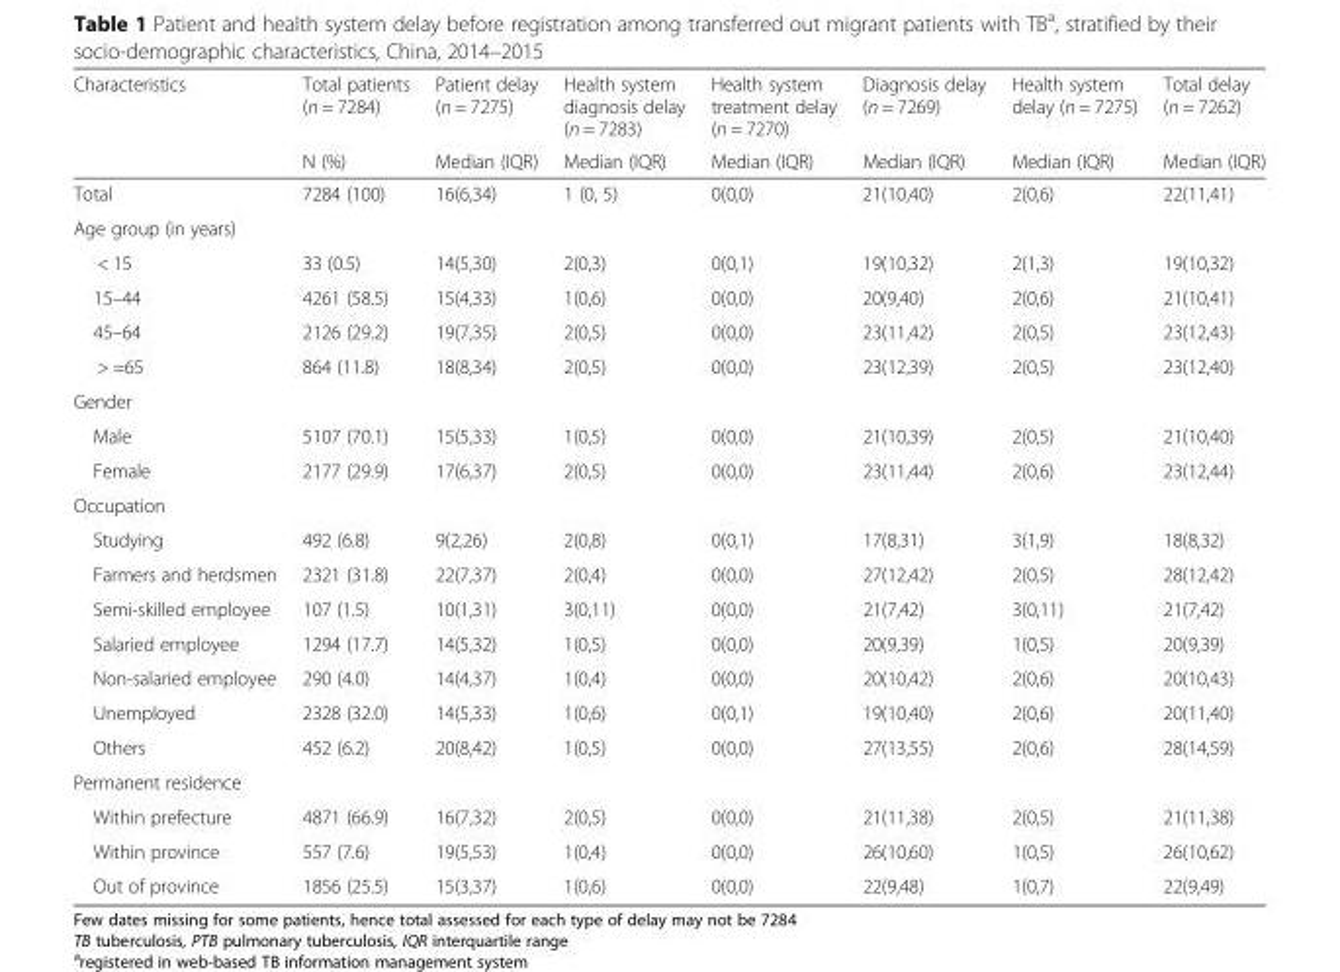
<table><thead><tr><td rowspan="2">Characteristics</td><td rowspan="2">Total patients (n = 7284) N (%)</td><td rowspan="2">Patient delay (n = 7275) Median (IQR)</td><td rowspan="2">Health system diagnosis delay (n = 7283) Median (IQR)</td><td rowspan="2">Health system treatment delay (n = 7270) Median (IQR)</td><td rowspan="2">Diagnosis delay (n = 7269) Median (IQR)</td><td rowspan="2">Health system delay (n = 7275) Median (IQR)</td><td rowspan="2">Total delay (n = 7262) Median (IQR)</td></tr><tr></tr></thead><tbody><tr><td>Total</td><td>7284 (100)</td><td>16(6,34)</td><td>1 (0, 5)</td><td>0(0,0)</td><td>21(10,40)</td><td>2(0,6)</td><td>22(11,41)</td></tr><tr><td colspan="8">Age group (in years)</td></tr><tr><td>&lt; 15</td><td>33 (0.5)</td><td>14(5,30)</td><td>2(0,3)</td><td>0(0,1)</td><td>19(10,32)</td><td>2(1,3)</td><td>19(10,32)</td></tr><tr><td>15–44</td><td>4261 (58.5)</td><td>15(4,33)</td><td>1(0,6)</td><td>0(0,0)</td><td>20(9,40)</td><td>2(0,6)</td><td>21(10,41)</td></tr><tr><td>45–64</td><td>2126 (29.2)</td><td>19(7,35)</td><td>2(0,5)</td><td>0(0,0)</td><td>23(11,42)</td><td>2(0,5)</td><td>23(12,43)</td></tr><tr><td>&gt; =65</td><td>864 (11.8)</td><td>18(8,34)</td><td>2(0,5)</td><td>0(0,0)</td><td>23(12,39)</td><td>2(0,5)</td><td>23(12,40)</td></tr><tr><td colspan="8">Gender</td></tr><tr><td>Male</td><td>5107 (70.1)</td><td>15(5,33)</td><td>1(0,5)</td><td>0(0,0)</td><td>21(10,39)</td><td>2(0,5)</td><td>21(10,40)</td></tr><tr><td>Female</td><td>2177 (29.9)</td><td>17(6,37)</td><td>2(0,5)</td><td>0(0,0)</td><td>23(11,44)</td><td>2(0,6)</td><td>23(12,44)</td></tr><tr><td colspan="8">Occupation</td></tr><tr><td>Studying</td><td>492 (6.8)</td><td>9(2,26)</td><td>2(0,8)</td><td>0(0,1)</td><td>17(8,31)</td><td>3(1,9)</td><td>18(8,32)</td></tr><tr><td>Farmers and herdsmen</td><td>2321 (31.8)</td><td>22(7,37)</td><td>2(0,4)</td><td>0(0,0)</td><td>27(12,42)</td><td>2(0,5)</td><td>28(12,42)</td></tr><tr><td>Semi-skilled employee</td><td>107 (1.5)</td><td>10(1,31)</td><td>3(0,11)</td><td>0(0,0)</td><td>21(7,42)</td><td>3(0,11)</td><td>21(7,42)</td></tr><tr><td>Salaried employee</td><td>1294 (17.7)</td><td>14(5,32)</td><td>1(0,5)</td><td>0(0,0)</td><td>20(9,39)</td><td>1(0,5)</td><td>20(9,39)</td></tr><tr><td>Non-salaried employee</td><td>290 (4.0)</td><td>14(4,37)</td><td>1(0,4)</td><td>0(0,0)</td><td>20(10,42)</td><td>2(0,6)</td><td>20(10,43)</td></tr><tr><td>Unemployed</td><td>2328 (32.0)</td><td>14(5,33)</td><td>1(0,6)</td><td>0(0,1)</td><td>19(10,40)</td><td>2(0,6)</td><td>20(11,40)</td></tr><tr><td>Others</td><td>452 (6.2)</td><td>20(8,42)</td><td>1(0,5)</td><td>0(0,0)</td><td>27(13,55)</td><td>2(0,6)</td><td>28(14,59)</td></tr><tr><td colspan="8">Permanent residence</td></tr><tr><td>Within prefecture</td><td>4871 (66.9)</td><td>16(7,32)</td><td>2(0,5)</td><td>0(0,0)</td><td>21(11,38)</td><td>2(0,5)</td><td>21(11,38)</td></tr><tr><td>Within province</td><td>557 (7.6)</td><td>19(5,53)</td><td>1(0,4)</td><td>0(0,0)</td><td>26(10,60)</td><td>1(0,5)</td><td>26(10,62)</td></tr><tr><td>Out of province</td><td>1856 (25.5)</td><td>15(3,37)</td><td>1(0,6)</td><td>0(0,0)</td><td>22(9,48)</td><td>1(0,7)</td><td>22(9,49)</td></tr></tbody></table>